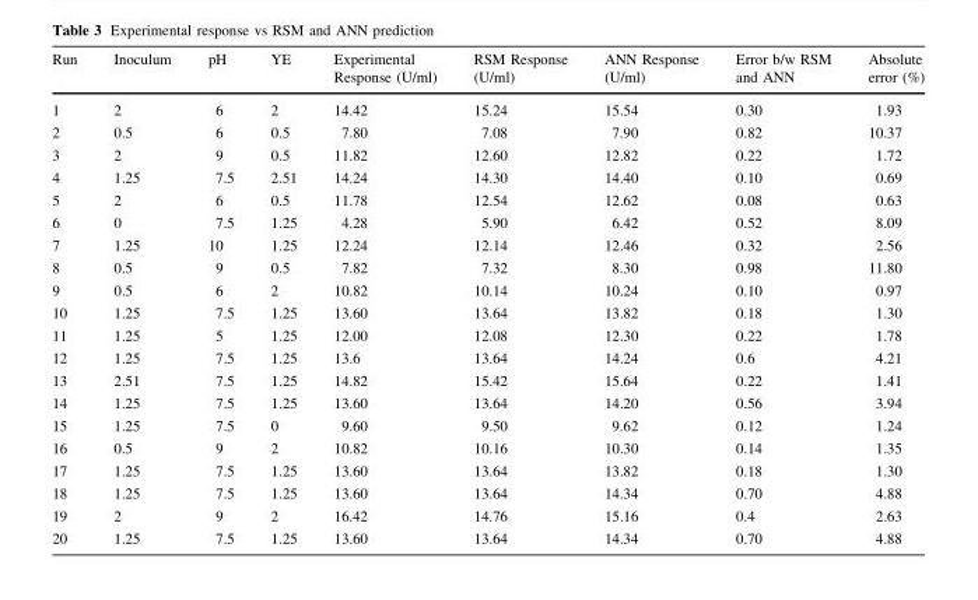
<table><thead><tr><td>Run</td><td>Inoculum</td><td>pH</td><td>YE</td><td>Experimental Response (U/ml)</td><td>RSM Response (U/ml)</td><td>ANN Response (U/ml)</td><td>Error b/w RSM and ANN</td><td>Absolute error (%)</td></tr></thead><tbody><tr><td>1</td><td>2</td><td>6</td><td>2</td><td>14.42</td><td>15.24</td><td>15.54</td><td>0.30</td><td>1.93</td></tr><tr><td>2</td><td>0.5</td><td>6</td><td>0.5</td><td>7.80</td><td>7.08</td><td>7.90</td><td>0.82</td><td>10.37</td></tr><tr><td>3</td><td>2</td><td>9</td><td>0.5</td><td>11.82</td><td>12.60</td><td>12.82</td><td>0.22</td><td>1.72</td></tr><tr><td>4</td><td>1.25</td><td>7.5</td><td>2.51</td><td>14.24</td><td>14.30</td><td>14.40</td><td>0.10</td><td>0.69</td></tr><tr><td>5</td><td>2</td><td>6</td><td>0.5</td><td>11.78</td><td>12.54</td><td>12.62</td><td>0.08</td><td>0.63</td></tr><tr><td>6</td><td>0</td><td>7.5</td><td>1.25</td><td>4.28</td><td>5.90</td><td>6.42</td><td>0.52</td><td>8.09</td></tr><tr><td>7</td><td>1.25</td><td>10</td><td>1.25</td><td>12.24</td><td>12.14</td><td>12.46</td><td>0.32</td><td>2.56</td></tr><tr><td>8</td><td>0.5</td><td>9</td><td>0.5</td><td>7.82</td><td>7.32</td><td>8.30</td><td>0.98</td><td>11.80</td></tr><tr><td>9</td><td>0.5</td><td>6</td><td>2</td><td>10.82</td><td>10.14</td><td>10.24</td><td>0.10</td><td>0.97</td></tr><tr><td>10</td><td>1.25</td><td>7.5</td><td>1.25</td><td>13.60</td><td>13.64</td><td>13.82</td><td>0.18</td><td>1.30</td></tr><tr><td>11</td><td>1.25</td><td>5</td><td>1.25</td><td>12.00</td><td>12.08</td><td>12.30</td><td>0.22</td><td>1.78</td></tr><tr><td>12</td><td>1.25</td><td>7.5</td><td>1.25</td><td>13.6</td><td>13.64</td><td>14.24</td><td>0.6</td><td>4.21</td></tr><tr><td>13</td><td>2.51</td><td>7.5</td><td>1.25</td><td>14.82</td><td>15.42</td><td>15.64</td><td>0.22</td><td>1.41</td></tr><tr><td>14</td><td>1.25</td><td>7.5</td><td>1.25</td><td>13.60</td><td>13.64</td><td>14.20</td><td>0.56</td><td>3.94</td></tr><tr><td>15</td><td>1.25</td><td>7.5</td><td>0</td><td>9.60</td><td>9.50</td><td>9.62</td><td>0.12</td><td>1.24</td></tr><tr><td>16</td><td>0.5</td><td>9</td><td>2</td><td>10.82</td><td>10.16</td><td>10.30</td><td>0.14</td><td>1.35</td></tr><tr><td>17</td><td>1.25</td><td>7.5</td><td>1.25</td><td>13.60</td><td>13.64</td><td>13.82</td><td>0.18</td><td>1.30</td></tr><tr><td>18</td><td>1.25</td><td>7.5</td><td>1.25</td><td>13.60</td><td>13.64</td><td>14.34</td><td>0.70</td><td>4.88</td></tr><tr><td>19</td><td>2</td><td>9</td><td>2</td><td>16.42</td><td>14.76</td><td>15.16</td><td>0.4</td><td>2.63</td></tr><tr><td>20</td><td>1.25</td><td>7.5</td><td>1.25</td><td>13.60</td><td>13.64</td><td>14.34</td><td>0.70</td><td>4.88</td></tr></tbody></table>